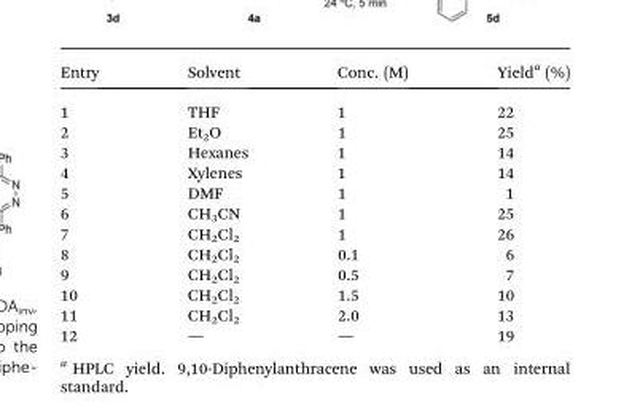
<table><thead><tr><td>Entry</td><td>Solvent</td><td>Conc. (M)</td><td>Yield<sup>a</sup> (%)</td></tr></thead><tbody><tr><td>1</td><td>THF</td><td>1</td><td>22</td></tr><tr><td>2</td><td>Et<sub>2</sub>O</td><td>1</td><td>25</td></tr><tr><td>3</td><td>Hexanes</td><td>1</td><td>14</td></tr><tr><td>4</td><td>Xylenes</td><td>1</td><td>14</td></tr><tr><td>5</td><td>DMF</td><td>1</td><td>1</td></tr><tr><td>6</td><td>CH<sub>3</sub>CN</td><td>1</td><td>25</td></tr><tr><td>7</td><td>CH<sub>2</sub>Cl<sub>2</sub></td><td>1</td><td>26</td></tr><tr><td>8</td><td>CH<sub>2</sub>Cl<sub>2</sub></td><td>0.1</td><td>6</td></tr><tr><td>9</td><td>CH<sub>2</sub>Cl<sub>2</sub></td><td>0.5</td><td>7</td></tr><tr><td>10</td><td>CH<sub>2</sub>Cl<sub>2</sub></td><td>1.5</td><td>10</td></tr><tr><td>11</td><td>CH<sub>2</sub>Cl<sub>2</sub></td><td>2.0</td><td>13</td></tr><tr><td>12</td><td>—</td><td>—</td><td>19</td></tr></tbody></table>